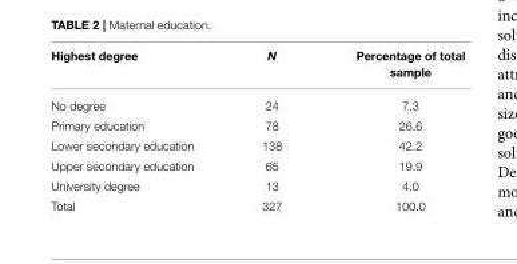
<table><thead><tr><td>Highest degree</td><td>N</td><td>Percentage of total sample</td></tr></thead><tbody><tr><td>No degree</td><td>24</td><td>7.3</td></tr><tr><td>Primary education</td><td>78</td><td>26.6</td></tr><tr><td>Lower secondary education</td><td>138</td><td>42.2</td></tr><tr><td>Upper secondary education</td><td>65</td><td>19.9</td></tr><tr><td>University degree</td><td>13</td><td>4.0</td></tr><tr><td>Total</td><td>327</td><td>100.0</td></tr></tbody></table>